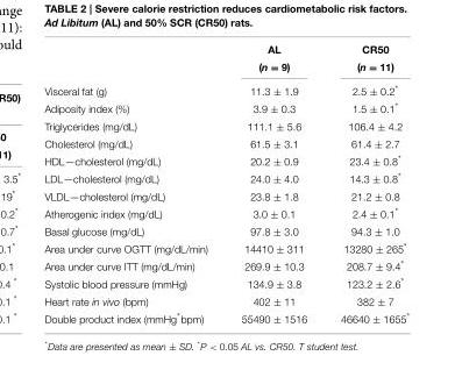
<table><thead><tr><td rowspan="2"></td><td rowspan="2">AL (n = 9)</td><td rowspan="2">CR50 (n = 11)</td></tr><tr></tr></thead><tbody><tr><td>Visceral fat (g)</td><td>11.3 ± 1.9</td><td>2.5 ± 0.2*</td></tr><tr><td>Adiposity index (%)</td><td>3.9 ± 0.3</td><td>1.5 ± 0.1*</td></tr><tr><td>Triglycerides (mg/dL)</td><td>111.1 ± 5.6</td><td>106.4 ± 4.2</td></tr><tr><td>Cholesterol (mg/dL)</td><td>61.5 ± 3.1</td><td>61.4 ± 2.7</td></tr><tr><td>HDL—cholesterol (mg/dL)</td><td>20.2 ± 0.9</td><td>23.4 ± 0.8*</td></tr><tr><td>LDL—cholesterol (mg/dL)</td><td>24.0 ± 4.0</td><td>14.3 ± 0.8*</td></tr><tr><td>VLDL—cholesterol (mg/dL)</td><td>23.8 ± 1.8</td><td>21.2 ± 0.8</td></tr><tr><td>Atherogenic index (mg/dL)</td><td>3.0 ± 0.1</td><td>2.4 ± 0.1*</td></tr><tr><td>Basal glucose (mg/dL)</td><td>97.8 ± 3.0</td><td>94.3 ± 1.0</td></tr><tr><td>Area under curve OGTT (mg/dL/min)</td><td>14410 ± 311</td><td>13280 ± 265*</td></tr><tr><td>Area under curve ITT (mg/dL/min)</td><td>269.9 ± 10.3</td><td>208.7 ± 9.4*</td></tr><tr><td>Systolic blood pressure (mmHg)</td><td>134.9 ± 3.8</td><td>123.2 ± 2.6*</td></tr><tr><td>Heart rate in vivo (bpm)</td><td>402 ± 11</td><td>382 ± 7</td></tr><tr><td>Double product index (mmHg*bpm)</td><td>55490 ± 1516</td><td>46640 ± 1655*</td></tr></tbody></table>